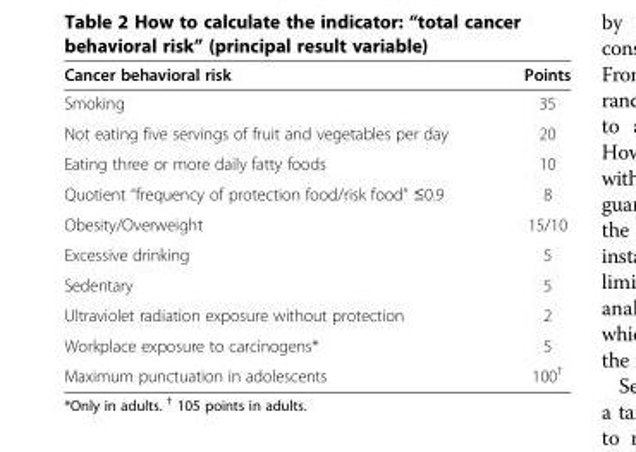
<table><thead><tr><td>Cancer behavioral risk</td><td>Points</td></tr></thead><tbody><tr><td>Smoking</td><td>35</td></tr><tr><td>Not eating five servings of fruit and vegetables per day</td><td>20</td></tr><tr><td>Eating three or more daily fatty foods</td><td>10</td></tr><tr><td>Quotient “frequency of protection food/risk food” ≤0.9</td><td>8</td></tr><tr><td>Obesity/Overweight</td><td>15/10</td></tr><tr><td>Excessive drinking</td><td>5</td></tr><tr><td>Sedentary</td><td>5</td></tr><tr><td>Ultraviolet radiation exposure without protection</td><td>2</td></tr><tr><td>Workplace exposure to carcinogens*</td><td>5</td></tr><tr><td>Maximum punctuation in adolescents</td><td>100<sup>†</sup></td></tr></tbody></table>